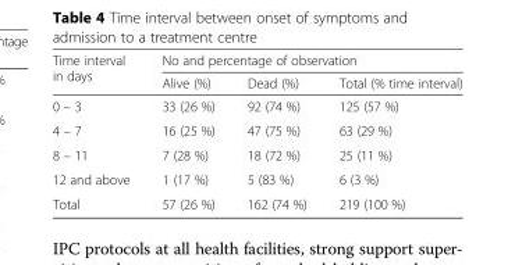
<table><thead><tr><td rowspan="2">Time interval in days</td><td colspan="3">No and percentage of observation</td></tr><tr><td>Alive (%)</td><td>Dead (%)</td><td>Total (% time interval)</td></tr></thead><tbody><tr><td>0 – 3</td><td>33 (26 %)</td><td>92 (74 %)</td><td>125 (57 %)</td></tr><tr><td>4 – 7</td><td>16 (25 %)</td><td>47 (75 %)</td><td>63 (29 %)</td></tr><tr><td>8 – 11</td><td>7 (28 %)</td><td>18 (72 %)</td><td>25 (11 %)</td></tr><tr><td>12 and above</td><td>1 (17 %)</td><td>5 (83 %)</td><td>6 (3 %)</td></tr><tr><td>Total</td><td>57 (26 %)</td><td>162 (74 %)</td><td>219 (100 %)</td></tr></tbody></table>